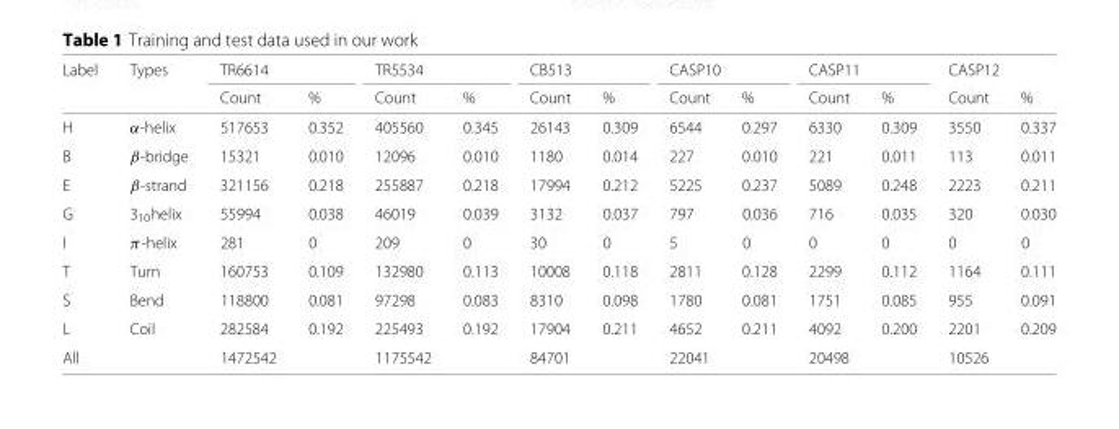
<table><thead><tr><td rowspan="2">Label</td><td rowspan="2">Types</td><td colspan="2">TR6614</td><td colspan="2">TR5534</td><td colspan="2">CB513</td><td colspan="2">CASP10</td><td colspan="2">CASP11</td><td colspan="2">CASP12</td></tr><tr><td>Count</td><td>%</td><td>Count</td><td>%</td><td>Count</td><td>%</td><td>Count</td><td>%</td><td>Count</td><td>%</td><td>Count</td><td>%</td></tr></thead><tbody><tr><td>H</td><td>α-helix</td><td>517653</td><td>0.352</td><td>405560</td><td>0.345</td><td>26143</td><td>0.309</td><td>6544</td><td>0.297</td><td>6330</td><td>0.309</td><td>3550</td><td>0.337</td></tr><tr><td>B</td><td>β-bridge</td><td>15321</td><td>0.010</td><td>12096</td><td>0.010</td><td>1180</td><td>0.014</td><td>227</td><td>0.010</td><td>221</td><td>0.011</td><td>113</td><td>0.011</td></tr><tr><td>E</td><td>β-strand</td><td>321156</td><td>0.218</td><td>255887</td><td>0.218</td><td>17994</td><td>0.212</td><td>5225</td><td>0.237</td><td>5089</td><td>0.248</td><td>2223</td><td>0.211</td></tr><tr><td>G</td><td>3<sub>10</sub>helix</td><td>55994</td><td>0.038</td><td>46019</td><td>0.039</td><td>3132</td><td>0.037</td><td>797</td><td>0.036</td><td>716</td><td>0.035</td><td>320</td><td>0.030</td></tr><tr><td>I</td><td>π-helix</td><td>281</td><td>0</td><td>209</td><td>0</td><td>30</td><td>0</td><td>5</td><td>0</td><td>0</td><td>0</td><td>0</td><td>0</td></tr><tr><td>T</td><td>Turn</td><td>160753</td><td>0.109</td><td>132980</td><td>0.113</td><td>10008</td><td>0.118</td><td>2811</td><td>0.128</td><td>2299</td><td>0.112</td><td>1164</td><td>0.111</td></tr><tr><td>S</td><td>Bend</td><td>118800</td><td>0.081</td><td>97298</td><td>0.083</td><td>8310</td><td>0.098</td><td>1780</td><td>0.081</td><td>1751</td><td>0.085</td><td>955</td><td>0.091</td></tr><tr><td>L</td><td>Coil</td><td>282584</td><td>0.192</td><td>225493</td><td>0.192</td><td>17904</td><td>0.211</td><td>4652</td><td>0.211</td><td>4092</td><td>0.200</td><td>2201</td><td>0.209</td></tr><tr><td>All</td><td></td><td>1472542</td><td></td><td>1175542</td><td></td><td>84701</td><td></td><td>22041</td><td></td><td>20498</td><td></td><td>10526</td><td></td></tr></tbody></table>